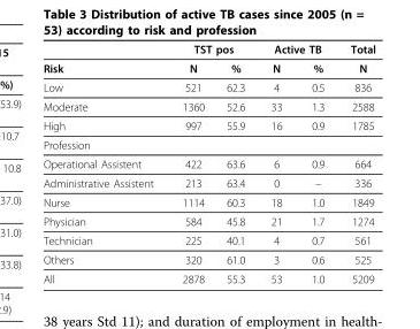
<table><thead><tr><td rowspan="2">Risk</td><td colspan="2">TST pos</td><td colspan="2">Active TB</td><td rowspan="2">Total N</td></tr><tr><td>N</td><td>%</td><td>N</td><td>%</td></tr></thead><tbody><tr><td>Low</td><td>521</td><td>62.3</td><td>4</td><td>0.5</td><td>836</td></tr><tr><td>Moderate</td><td>1360</td><td>52.6</td><td>33</td><td>1.3</td><td>2588</td></tr><tr><td>High</td><td>997</td><td>55.9</td><td>16</td><td>0.9</td><td>1785</td></tr><tr><td colspan="6">Profession</td></tr><tr><td>Operational Assistent</td><td>422</td><td>63.6</td><td>6</td><td>0.9</td><td>664</td></tr><tr><td>Administrative Assistent</td><td>213</td><td>63.4</td><td>0</td><td>–</td><td>336</td></tr><tr><td>Nurse</td><td>1114</td><td>60.3</td><td>18</td><td>1.0</td><td>1849</td></tr><tr><td>Physician</td><td>584</td><td>45.8</td><td>21</td><td>1.7</td><td>1274</td></tr><tr><td>Technician</td><td>225</td><td>40.1</td><td>4</td><td>0.7</td><td>561</td></tr><tr><td>Others</td><td>320</td><td>61.0</td><td>3</td><td>0.6</td><td>525</td></tr><tr><td>All</td><td>2878</td><td>55.3</td><td>53</td><td>1.0</td><td>5209</td></tr></tbody></table>